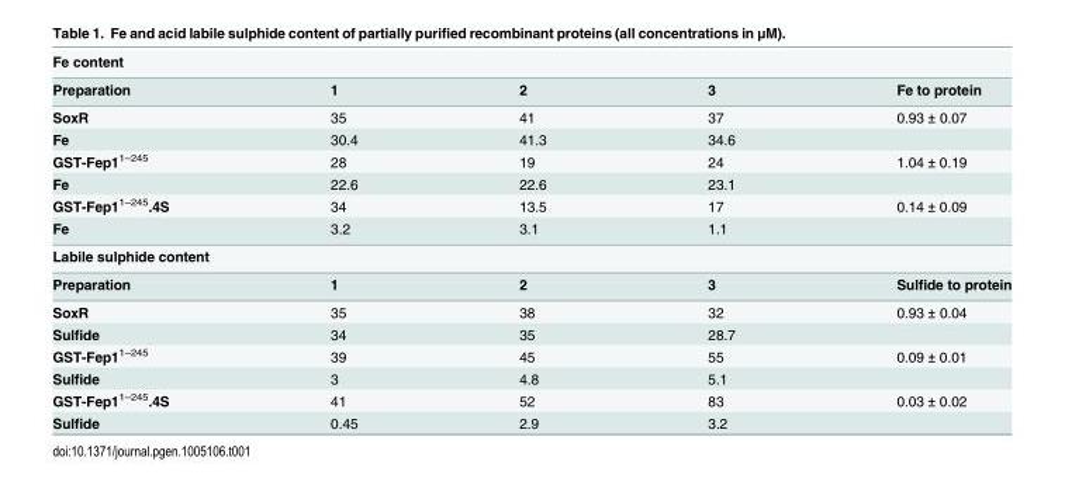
<table><tbody><tr><td colspan="5">Fe content</td></tr><tr><td>Preparation</td><td>1</td><td>2</td><td>3</td><td>Fe to protein</td></tr><tr><td>SoxR</td><td>35</td><td>41</td><td>37</td><td>0.93 ± 0.07</td></tr><tr><td>Fe</td><td>30.4</td><td>41.3</td><td>34.6</td><td></td></tr><tr><td>GST-Fep1<sup>1–245</sup></td><td>28</td><td>19</td><td>24</td><td>1.04 ± 0.19</td></tr><tr><td>Fe</td><td>22.6</td><td>22.6</td><td>23.1</td><td></td></tr><tr><td>GST-Fep1<sup>1–245</sup>.4S</td><td>34</td><td>13.5</td><td>17</td><td>0.14 ± 0.09</td></tr><tr><td>Fe</td><td>3.2</td><td>3.1</td><td>1.1</td><td></td></tr><tr><td colspan="5">Labile sulphide content</td></tr><tr><td>Preparation</td><td>1</td><td>2</td><td>3</td><td>Sulfide to protein</td></tr><tr><td>SoxR</td><td>35</td><td>38</td><td>32</td><td>0.93 ± 0.04</td></tr><tr><td>Sulfide</td><td>34</td><td>35</td><td>28.7</td><td></td></tr><tr><td>GST-Fep1<sup>1–245</sup></td><td>39</td><td>45</td><td>55</td><td>0.09 ± 0.01</td></tr><tr><td>Sulfide</td><td>3</td><td>4.8</td><td>5.1</td><td></td></tr><tr><td>GST-Fep1<sup>1–245</sup>.4S</td><td>41</td><td>52</td><td>83</td><td>0.03 ± 0.02</td></tr><tr><td>Sulfide</td><td>0.45</td><td>2.9</td><td>3.2</td><td></td></tr></tbody></table>